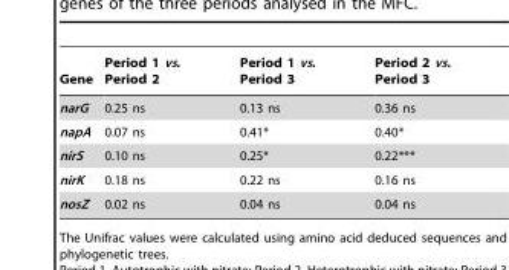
<table><thead><tr><td>Gene</td><td>Period 1 vs. Period 2</td><td>Period 1 vs. Period 3</td><td>Period 2 vs. Period 3</td></tr></thead><tbody><tr><td>narG</td><td>0.25 ns</td><td>0.13 ns</td><td>0.36 ns</td></tr><tr><td>napA</td><td>0.07 ns</td><td>0.41*</td><td>0.40*</td></tr><tr><td>nirS</td><td>0.10 ns</td><td>0.25*</td><td>0.22***</td></tr><tr><td>nirK</td><td>0.18 ns</td><td>0.22 ns</td><td>0.16 ns</td></tr><tr><td>nosZ</td><td>0.02 ns</td><td>0.04 ns</td><td>0.04 ns</td></tr></tbody></table>